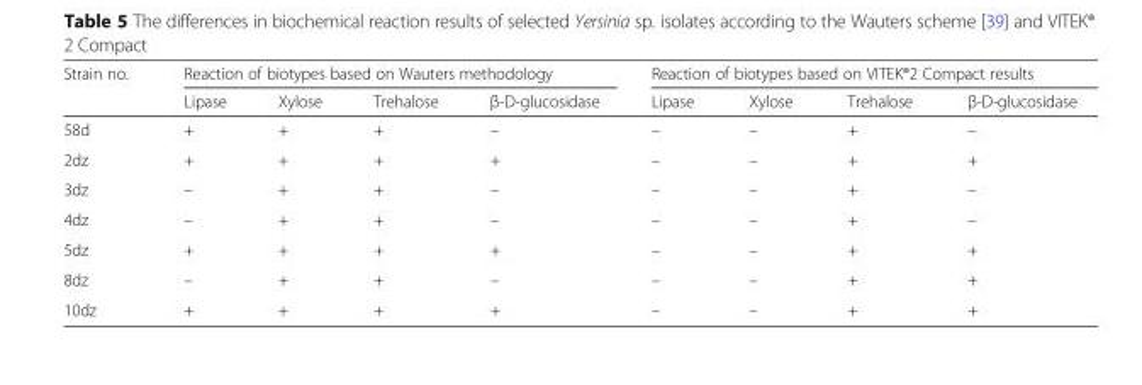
<table><thead><tr><td rowspan="2">Strain no.</td><td colspan="4">Reaction of biotypes based on Wauters methodology</td><td colspan="4">Reaction of biotypes based on VITEK®2 Compact results</td></tr><tr><td>Lipase</td><td>Xylose</td><td>Trehalose</td><td>β-D-glucosidase</td><td>Lipase</td><td>Xylose</td><td>Trehalose</td><td>β-D-glucosidase</td></tr></thead><tbody><tr><td>58d</td><td>+</td><td>+</td><td>+</td><td>–</td><td>–</td><td>–</td><td>+</td><td>–</td></tr><tr><td>2dz</td><td>+</td><td>+</td><td>+</td><td>+</td><td>–</td><td>–</td><td>+</td><td>+</td></tr><tr><td>3dz</td><td>–</td><td>+</td><td>+</td><td>–</td><td>–</td><td>–</td><td>+</td><td>–</td></tr><tr><td>4dz</td><td>–</td><td>+</td><td>+</td><td>–</td><td>–</td><td>–</td><td>+</td><td>–</td></tr><tr><td>5dz</td><td>+</td><td>+</td><td>+</td><td>+</td><td>–</td><td>–</td><td>+</td><td>+</td></tr><tr><td>8dz</td><td>–</td><td>+</td><td>+</td><td>–</td><td>–</td><td>–</td><td>+</td><td>+</td></tr><tr><td>10dz</td><td>+</td><td>+</td><td>+</td><td>+</td><td>–</td><td>–</td><td>+</td><td>+</td></tr></tbody></table>